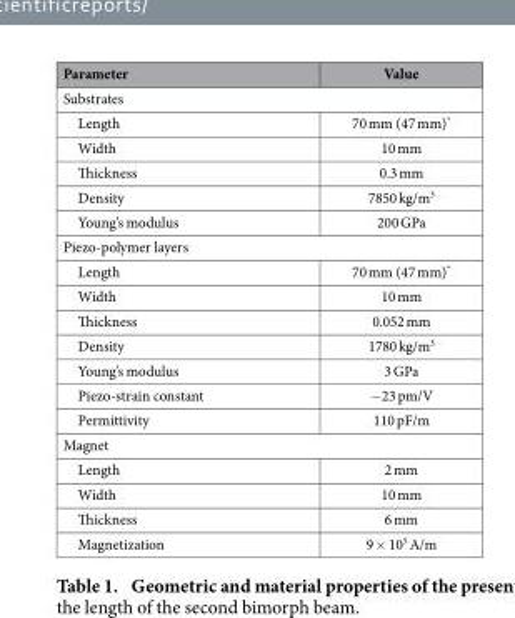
<table><thead><tr><td>Parameter</td><td>Value</td></tr></thead><tbody><tr><td colspan="2">Substrates</td></tr><tr><td>Length</td><td>70 mm (47 mm)*</td></tr><tr><td>Width</td><td>10 mm</td></tr><tr><td>Thickness</td><td>0.3 mm</td></tr><tr><td>Density</td><td>7850 kg/m<sup>3</sup></td></tr><tr><td>Young’s modulus</td><td>200 GPa</td></tr><tr><td colspan="2">Piezo-polymer layers</td></tr><tr><td>Length</td><td>70 mm (47 mm)*</td></tr><tr><td>Width</td><td>10 mm</td></tr><tr><td>Thickness</td><td>0.052 mm</td></tr><tr><td>Density</td><td>1780 kg/m<sup>3</sup></td></tr><tr><td>Young’s modulus</td><td>3 GPa</td></tr><tr><td>Piezo-strain constant</td><td>− 23 pm/V</td></tr><tr><td>Permittivity</td><td>110 pF/m</td></tr><tr><td colspan="2">Magnet</td></tr><tr><td>Length</td><td>2 mm</td></tr><tr><td>Width</td><td>10 mm</td></tr><tr><td>Thickness</td><td>6 mm</td></tr><tr><td>Magnetization</td><td>9 × 10<sup>5</sup> A/m</td></tr></tbody></table>